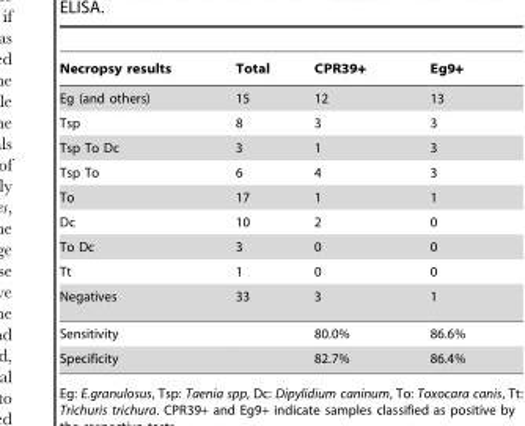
<table><thead><tr><td>Necropsy results</td><td>Total</td><td>CPR39+</td><td>Eg9+</td></tr></thead><tbody><tr><td>Eg (and others)</td><td>15</td><td>12</td><td>13</td></tr><tr><td>Tsp</td><td>8</td><td>3</td><td>3</td></tr><tr><td>Tsp To Dc</td><td>3</td><td>1</td><td>3</td></tr><tr><td>Tsp To</td><td>6</td><td>4</td><td>3</td></tr><tr><td>To</td><td>17</td><td>1</td><td>1</td></tr><tr><td>Dc</td><td>10</td><td>2</td><td>0</td></tr><tr><td>To Dc</td><td>3</td><td>0</td><td>0</td></tr><tr><td>Tt</td><td>1</td><td>0</td><td>0</td></tr><tr><td>Negatives</td><td>33</td><td>3</td><td>1</td></tr><tr><td>Sensitivity</td><td></td><td>80.0%</td><td>86.6%</td></tr><tr><td>Specificity</td><td></td><td>82.7%</td><td>86.4%</td></tr></tbody></table>